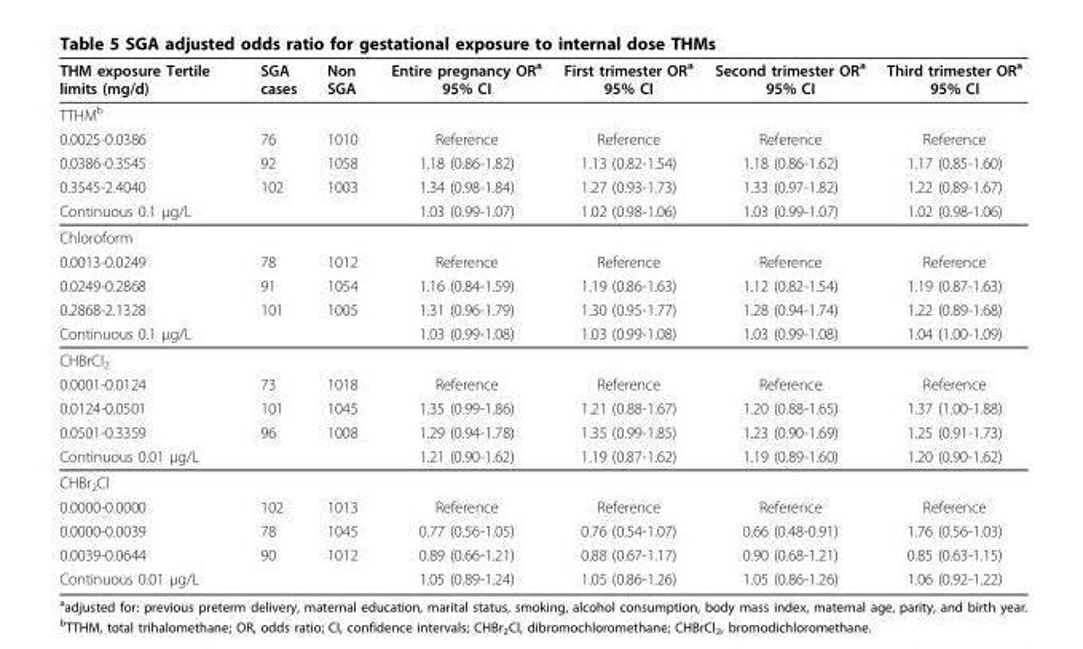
<table><thead><tr><td>THM exposure Tertile limits (mg/d)</td><td>SGA cases</td><td>Non SGA</td><td>Entire pregnancy OR<sup>a</sup> 95% CI</td><td>First trimester OR<sup>a</sup> 95% CI</td><td>Second trimester OR<sup>a</sup> 95% CI</td><td>Third trimester OR<sup>a</sup> 95% CI</td></tr></thead><tbody><tr><td colspan="7">TTHM<sup>b</sup></td></tr><tr><td>0.0025-0.0386</td><td>76</td><td>1010</td><td>Reference</td><td>Reference</td><td>Reference</td><td>Reference</td></tr><tr><td>0.0386-0.3545</td><td>92</td><td>1058</td><td>1.18 (0.86-1.82)</td><td>1.13 (0.82-1.54)</td><td>1.18 (0.86-1.62)</td><td>1.17 (0.85-1.60)</td></tr><tr><td>0.3545-2.4040</td><td>102</td><td>1003</td><td>1.34 (0.98-1.84)</td><td>1.27 (0.93-1.73)</td><td>1.33 (0.97-1.82)</td><td>1.22 (0.89-1.67)</td></tr><tr><td>Continuous 0.1 μg/L</td><td></td><td></td><td>1.03 (0.99-1.07)</td><td>1.02 (0.98-1.06)</td><td>1.03 (0.99-1.07)</td><td>1.02 (0.98-1.06)</td></tr><tr><td colspan="7">Chloroform</td></tr><tr><td>0.0013-0.0249</td><td>78</td><td>1012</td><td>Reference</td><td>Reference</td><td>Reference</td><td>Reference</td></tr><tr><td>0.0249-0.2868</td><td>91</td><td>1054</td><td>1.16 (0.84-1.59)</td><td>1.19 (0.86-1.63)</td><td>1.12 (0.82-1.54)</td><td>1.19 (0.87-1.63)</td></tr><tr><td>0.2868-2.1328</td><td>101</td><td>1005</td><td>1.31 (0.96-1.79)</td><td>1.30 (0.95-1.77)</td><td>1.28 (0.94-1.74)</td><td>1.22 (0.89-1.68)</td></tr><tr><td>Continuous 0.1 μg/L</td><td></td><td></td><td>1.03 (0.99-1.08)</td><td>1.03 (0.99-1.08)</td><td>1.03 (0.99-1.08)</td><td>1.04 (1.00-1.09)</td></tr><tr><td colspan="7">CHBrCl<sub>2</sub></td></tr><tr><td>0.0001-0.0124</td><td>73</td><td>1018</td><td>Reference</td><td>Reference</td><td>Reference</td><td>Reference</td></tr><tr><td>0.0124-0.0501</td><td>101</td><td>1045</td><td>1.35 (0.99-1.86)</td><td>1.21 (0.88-1.67)</td><td>1.20 (0.88-1.65)</td><td>1.37 (1.00-1.88)</td></tr><tr><td>0.0501-0.3359</td><td>96</td><td>1008</td><td>1.29 (0.94-1.78)</td><td>1.35 (0.99-1.85)</td><td>1.23 (0.90-1.69)</td><td>1.25 (0.91-1.73)</td></tr><tr><td>Continuous 0.01 μg/L</td><td></td><td></td><td>1.21 (0.90-1.62)</td><td>1.19 (0.87-1.62)</td><td>1.19 (0.89-1.60)</td><td>1.20 (0.90-1.62)</td></tr><tr><td colspan="7">CHBr<sub>2</sub>Cl</td></tr><tr><td>0.0000-0.0000</td><td>102</td><td>1013</td><td>Reference</td><td>Reference</td><td>Reference</td><td>Reference</td></tr><tr><td>0.0000-0.0039</td><td>78</td><td>1045</td><td>0.77 (0.56-1.05)</td><td>0.76 (0.54-1.07)</td><td>0.66 (0.48-0.91)</td><td>1.76 (0.56-1.03)</td></tr><tr><td>0.0039-0.0644</td><td>90</td><td>1012</td><td>0.89 (0.66-1.21)</td><td>0.88 (0.67-1.17)</td><td>0.90 (0.68-1.21)</td><td>0.85 (0.63-1.15)</td></tr><tr><td>Continuous 0.01 μg/L</td><td></td><td></td><td>1.05 (0.89-1.24)</td><td>1.05 (0.86-1.26)</td><td>1.05 (0.86-1.26)</td><td>1.06 (0.92-1.22)</td></tr></tbody></table>